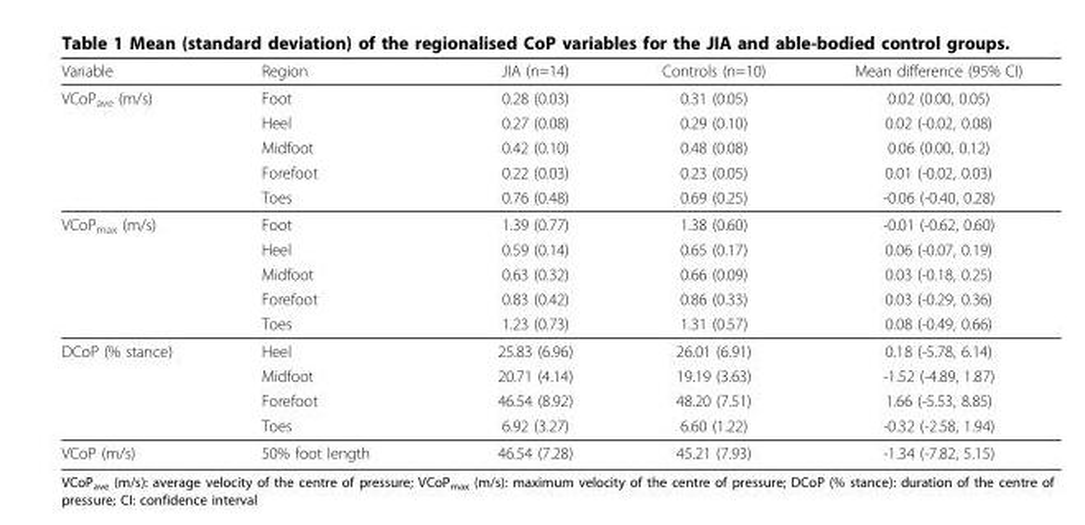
<table><thead><tr><td>Variable</td><td>Region</td><td>JIA (n=14)</td><td>Controls (n=10)</td><td>Mean difference (95% CI)</td></tr></thead><tbody><tr><td rowspan="5">VCoP<sub>ave</sub> (m/s)</td><td>Foot</td><td>0.28 (0.03)</td><td>0.31 (0.05)</td><td>0.02 (0.00, 0.05)</td></tr><tr><td>Heel</td><td>0.27 (0.08)</td><td>0.29 (0.10)</td><td>0.02 (-0.02, 0.08)</td></tr><tr><td>Midfoot</td><td>0.42 (0.10)</td><td>0.48 (0.08)</td><td>0.06 (0.00, 0.12)</td></tr><tr><td>Forefoot</td><td>0.22 (0.03)</td><td>0.23 (0.05)</td><td>0.01 (-0.02, 0.03)</td></tr><tr><td>Toes</td><td>0.76 (0.48)</td><td>0.69 (0.25)</td><td>-0.06 (-0.40, 0.28)</td></tr><tr><td rowspan="5">VCoP<sub>max</sub> (m/s)</td><td>Foot</td><td>1.39 (0.77)</td><td>1.38 (0.60)</td><td>-0.01 (-0.62, 0.60)</td></tr><tr><td>Heel</td><td>0.59 (0.14)</td><td>0.65 (0.17)</td><td>0.06 (-0.07, 0.19)</td></tr><tr><td>Midfoot</td><td>0.63 (0.32)</td><td>0.66 (0.09)</td><td>0.03 (-0.18, 0.25)</td></tr><tr><td>Forefoot</td><td>0.83 (0.42)</td><td>0.86 (0.33)</td><td>0.03 (-0.29, 0.36)</td></tr><tr><td>Toes</td><td>1.23 (0.73)</td><td>1.31 (0.57)</td><td>0.08 (-0.49, 0.66)</td></tr><tr><td rowspan="4">DCoP (% stance)</td><td>Heel</td><td>25.83 (6.96)</td><td>26.01 (6.91)</td><td>0.18 (-5.78, 6.14)</td></tr><tr><td>Midfoot</td><td>20.71 (4.14)</td><td>19.19 (3.63)</td><td>-1.52 (-4.89, 1.87)</td></tr><tr><td>Forefoot</td><td>46.54 (8.92)</td><td>48.20 (7.51)</td><td>1.66 (-5.53, 8.85)</td></tr><tr><td>Toes</td><td>6.92 (3.27)</td><td>6.60 (1.22)</td><td>-0.32 (-2.58, 1.94)</td></tr><tr><td>VCoP (m/s)</td><td>50% foot length</td><td>46.54 (7.28)</td><td>45.21 (7.93)</td><td>-1.34 (-7.82, 5.15)</td></tr></tbody></table>